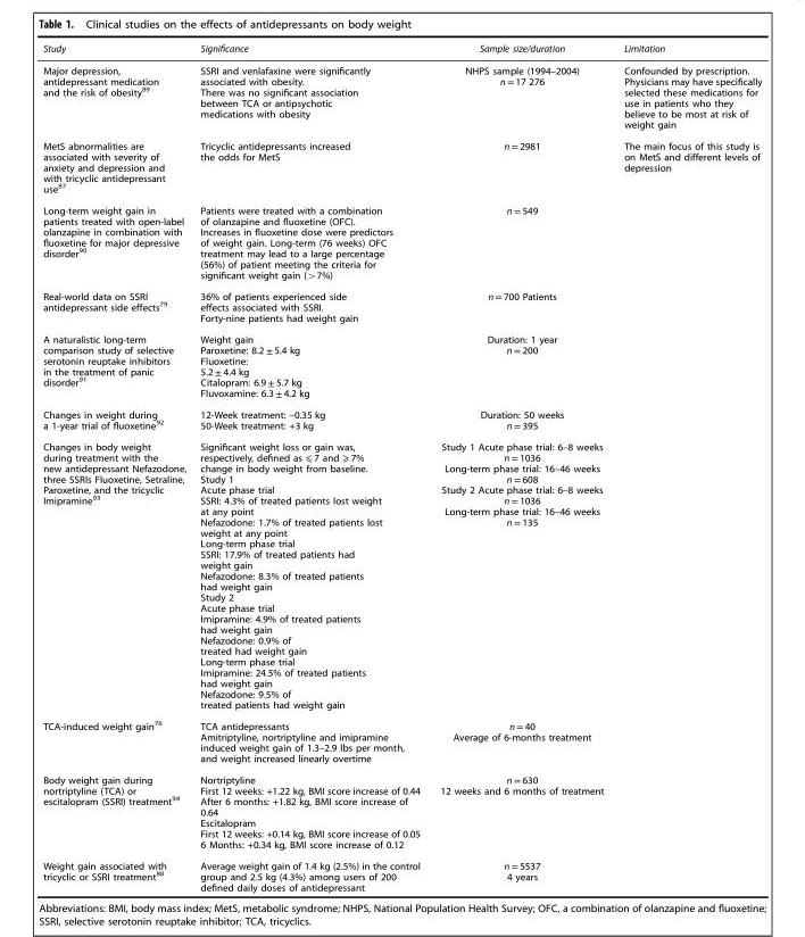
<table><thead><tr><td>Study</td><td>Significance</td><td>Sample size/duration</td><td>Limitation</td></tr></thead><tbody><tr><td>Major depression, antidepressant medication and the risk of obesity<sup>89</sup></td><td>SSRI and venlafaxine were significantly associated with obesity. There was no significant association between TCA or antipsychotic medications with obesity</td><td>NHPS sample (1994–2004) n = 17 276</td><td>Confounded by prescription. Physicians may have specifically selected these medications for use in patients who they believe to be most at risk of weight gain</td></tr><tr><td>MetS abnormalities are associated with severity of anxiety and depression and with tricyclic antidepressant use<sup>87</sup></td><td>Tricyclic antidepressants increased the odds for MetS</td><td>n = 2981</td><td>The main focus of this study is on MetS and different levels of depression</td></tr><tr><td>Long-term weight gain in patients treated with open-label olanzapine in combination with fluoxetine for major depressive disorder<sup>90</sup></td><td>Patients were treated with a combination of olanzapine and fluoxetine (OFC). Increases in fluoxetine dose were predictors of weight gain. Long-term (76 weeks) OFC treatment may lead to a large percentage (56%) of patient meeting the criteria for significant weight gain (&gt;7%)</td><td>n = 549</td><td></td></tr><tr><td>Real-world data on SSRI antidepressant side effects<sup>79</sup></td><td>36% of patients experienced side effects associated with SSRI. Forty-nine patients had weight gain</td><td>n = 700 Patients</td><td></td></tr><tr><td>A naturalistic long-term comparison study of selective serotonin reuptake inhibitors in the treatment of panic disorder<sup>91</sup></td><td>Weight gain Paroxetine: 8.2 ± 5.4 kg Fluoxetine: 5.2 ± 4.4 kg Citalopram: 6.9 ± 5.7 kg Fluvoxamine: 6.3 ± 4.2 kg</td><td>Duration: 1 year n = 200</td><td></td></tr><tr><td>Changes in weight during a 1-year trial of fluoxetine<sup>92</sup></td><td>12-Week treatment: –0.35 kg 50-Week treatment: +3 kg</td><td>Duration: 50 weeks n = 395</td><td></td></tr><tr><td>Changes in body weight during treatment with the new antidepressant Nefazodone, three SSRIs Fluoxetine, Setraline, Paroxetine, and the tricyclic Imipramine<sup>93</sup></td><td>Significant weight loss or gain was, respectively, defined as ⩽ 7 and ⩾ 7% change in body weight from baseline. Study 1 Acute phase trial SSRI: 4.3% of treated patients lost weight at any point Nefazodone: 1.7% of treated patients lost weight at any point Long-term phase trial SSRI: 17.9% of treated patients had weight gain Nefazodone: 8.3% of treated patients had weight gain Study 2 Acute phase trial Imipramine: 4.9% of treated patients had weight gain Nefazodone: 0.9% of treated had weight gain Long-term phase trial Imipramine: 24.5% of treated patients had weight gain Nefazodone: 9.5% of treated patients had weight gain</td><td>Study 1 Acute phase trial: 6–8 weeks n = 1036 Long-term phase trial: 16–46 weeks n = 608 Study 2 Acute phase trial: 6–8 weeks n = 1036 Long-term phase trial: 16–46 weeks n = 135</td><td></td></tr><tr><td>TCA-induced weight gain<sup>76</sup></td><td>TCA antidepressants Amitriptyline, nortriptyline and imipramine induced weight gain of 1.3–2.9 lbs per month, and weight increased linearly overtime</td><td>n = 40 Average of 6-months treatment</td><td></td></tr><tr><td>Body weight gain during nortriptyline (TCA) or escitalopram (SSRI) treatment<sup>94</sup></td><td>Nortriptyline First 12 weeks: +1.22 kg, BMI score increase of 0.44 After 6 months: +1.82 kg, BMI score increase of 0.64 Escitalopram First 12 weeks: +0.14 kg, BMI score increase of 0.05 6 Months: +0.34 kg, BMI score increase of 0.12</td><td>n = 630 12 weeks and 6 months of treatment</td><td></td></tr><tr><td>Weight gain associated with tricyclic or SSRI treatment<sup>88</sup></td><td>Average weight gain of 1.4 kg (2.5%) in the control group and 2.5 kg (4.3%) among users of 200 defined daily doses of antidepressant</td><td>n = 5537 4 years</td><td></td></tr></tbody></table>